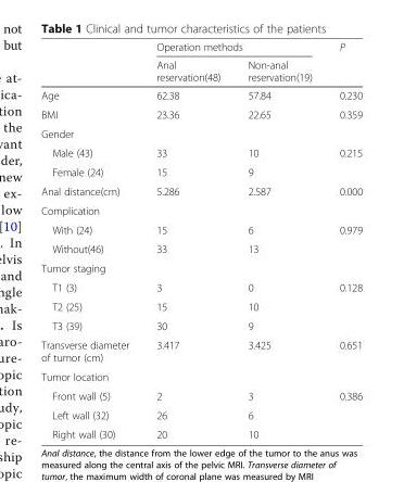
<table><thead><tr><td rowspan="2"></td><td colspan="2">Operation methods</td><td rowspan="2">P</td></tr><tr><td>Anal reservation(48)</td><td>Non-anal reservation(19)</td></tr></thead><tbody><tr><td>Age</td><td>62.38</td><td>57.84</td><td>0.230</td></tr><tr><td>BMI</td><td>23.36</td><td>22.65</td><td>0.359</td></tr><tr><td colspan="4">Gender</td></tr><tr><td>Male (43)</td><td>33</td><td>10</td><td rowspan="2">0.215</td></tr><tr><td>Female (24)</td><td>15</td><td>9</td></tr><tr><td>Anal distance(cm)</td><td>5.286</td><td>2.587</td><td>0.000</td></tr><tr><td colspan="4">Complication</td></tr><tr><td>With (24)</td><td>15</td><td>6</td><td rowspan="2">0.979</td></tr><tr><td>Without(46)</td><td>33</td><td>13</td></tr><tr><td colspan="4">Tumor staging</td></tr><tr><td>T1 (3)</td><td>3</td><td>0</td><td rowspan="3">0.128</td></tr><tr><td>T2 (25)</td><td>15</td><td>10</td></tr><tr><td>T3 (39)</td><td>30</td><td>9</td></tr><tr><td>Transverse diameter of tumor (cm)</td><td>3.417</td><td>3.425</td><td>0.651</td></tr><tr><td colspan="4">Tumor location</td></tr><tr><td>Front wall (5)</td><td>2</td><td>3</td><td rowspan="3">0.386</td></tr><tr><td>Left wall (32)</td><td>26</td><td>6</td></tr><tr><td>Right wall (30)</td><td>20</td><td>10</td></tr></tbody></table>